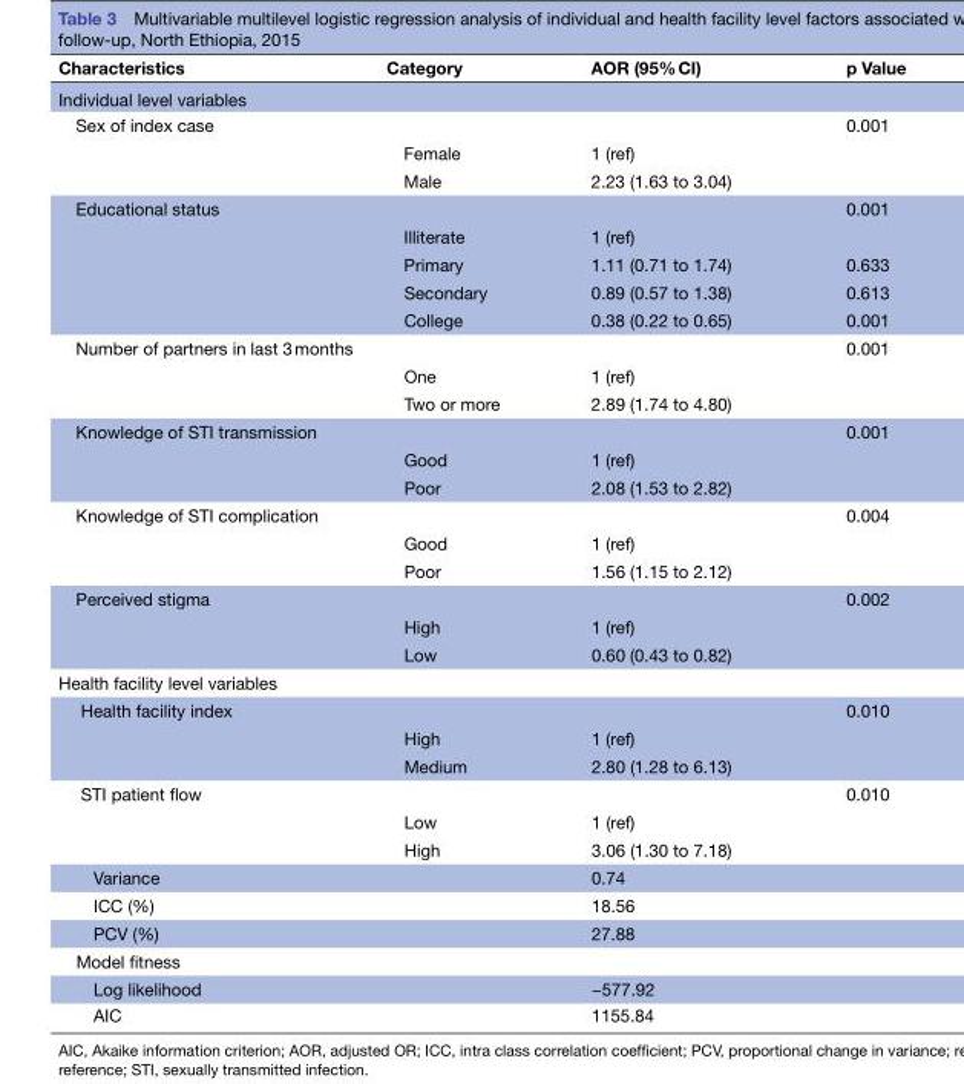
<table><thead><tr><td>Characteristics</td><td>Category</td><td>AOR (95% CI)</td><td>p Value</td></tr></thead><tbody><tr><td colspan="4">Individual level variables</td></tr><tr><td rowspan="3">Sex of index case</td><td></td><td></td><td>0.001</td></tr><tr><td>Female</td><td>1 (ref)</td><td></td></tr><tr><td>Male</td><td>2.23 (1.63 to 3.04)</td><td></td></tr><tr><td rowspan="5">Educational status</td><td></td><td></td><td>0.001</td></tr><tr><td>Illiterate</td><td>1 (ref)</td><td></td></tr><tr><td>Primary</td><td>1.11 (0.71 to 1.74)</td><td>0.633</td></tr><tr><td>Secondary</td><td>0.89 (0.57 to 1.38)</td><td>0.613</td></tr><tr><td>College</td><td>0.38 (0.22 to 0.65)</td><td>0.001</td></tr><tr><td rowspan="3">Number of partners in last 3 months</td><td></td><td></td><td>0.001</td></tr><tr><td>One</td><td>1 (ref)</td><td></td></tr><tr><td>Two or more</td><td>2.89 (1.74 to 4.80)</td><td></td></tr><tr><td rowspan="3">Knowledge of STI transmission</td><td></td><td></td><td>0.001</td></tr><tr><td>Good</td><td>1 (ref)</td><td></td></tr><tr><td>Poor</td><td>2.08 (1.53 to 2.82)</td><td></td></tr><tr><td rowspan="3">Knowledge of STI complication</td><td></td><td></td><td>0.004</td></tr><tr><td>Good</td><td>1 (ref)</td><td></td></tr><tr><td>Poor</td><td>1.56 (1.15 to 2.12)</td><td></td></tr><tr><td rowspan="3">Perceived stigma</td><td></td><td></td><td>0.002</td></tr><tr><td>High</td><td>1 (ref)</td><td></td></tr><tr><td>Low</td><td>0.60 (0.43 to 0.82)</td><td></td></tr><tr><td colspan="4">Health facility level variables</td></tr><tr><td rowspan="3">Health facility index</td><td></td><td></td><td>0.010</td></tr><tr><td>High</td><td>1 (ref)</td><td></td></tr><tr><td>Medium</td><td>2.80 (1.28 to 6.13)</td><td></td></tr><tr><td rowspan="3">STI patient flow</td><td></td><td></td><td>0.010</td></tr><tr><td>Low</td><td>1 (ref)</td><td></td></tr><tr><td>High</td><td>3.06 (1.30 to 7.18)</td><td></td></tr><tr><td>Variance</td><td></td><td>0.74</td><td></td></tr><tr><td>ICC (%)</td><td></td><td>18.56</td><td></td></tr><tr><td>PCV (%)</td><td></td><td>27.88</td><td></td></tr><tr><td colspan="4">Model fitness</td></tr><tr><td>Log likelihood</td><td></td><td>−577.92</td><td></td></tr><tr><td>AIC</td><td></td><td>1155.84</td><td></td></tr></tbody></table>